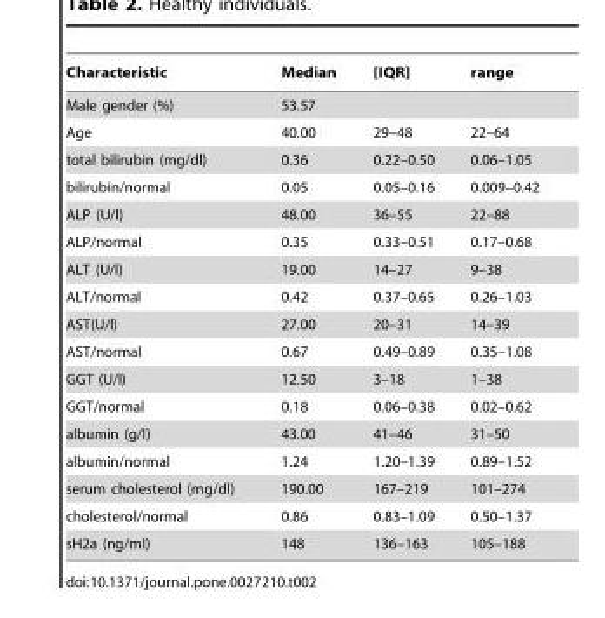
<table><thead><tr><td>Characteristic</td><td>Median</td><td>[IQR]</td><td>range</td></tr></thead><tbody><tr><td>Male gender (%)</td><td>53.57</td><td></td><td></td></tr><tr><td>Age</td><td>40.00</td><td>29–48</td><td>22–64</td></tr><tr><td>total bilirubin (mg/dl)</td><td>0.36</td><td>0.22–0.50</td><td>0.06–1.05</td></tr><tr><td>bilirubin/normal</td><td>0.05</td><td>0.05–0.16</td><td>0.009–0.42</td></tr><tr><td>ALP (U/l)</td><td>48.00</td><td>36–55</td><td>22–88</td></tr><tr><td>ALP/normal</td><td>0.35</td><td>0.33–0.51</td><td>0.17–0.68</td></tr><tr><td>ALT (U/l)</td><td>19.00</td><td>14–27</td><td>9–38</td></tr><tr><td>ALT/normal</td><td>0.42</td><td>0.37–0.65</td><td>0.26–1.03</td></tr><tr><td>AST(U/l)</td><td>27.00</td><td>20–31</td><td>14–39</td></tr><tr><td>AST/normal</td><td>0.67</td><td>0.49–0.89</td><td>0.35–1.08</td></tr><tr><td>GGT (U/l)</td><td>12.50</td><td>3–18</td><td>1–38</td></tr><tr><td>GGT/normal</td><td>0.18</td><td>0.06–0.38</td><td>0.02–0.62</td></tr><tr><td>albumin (g/l)</td><td>43.00</td><td>41–46</td><td>31–50</td></tr><tr><td>albumin/normal</td><td>1.24</td><td>1.20–1.39</td><td>0.89–1.52</td></tr><tr><td>serum cholesterol (mg/dl)</td><td>190.00</td><td>167–219</td><td>101–274</td></tr><tr><td>cholesterol/normal</td><td>0.86</td><td>0.83–1.09</td><td>0.50–1.37</td></tr><tr><td>sH2a (ng/ml)</td><td>148</td><td>136–163</td><td>105–188</td></tr></tbody></table>